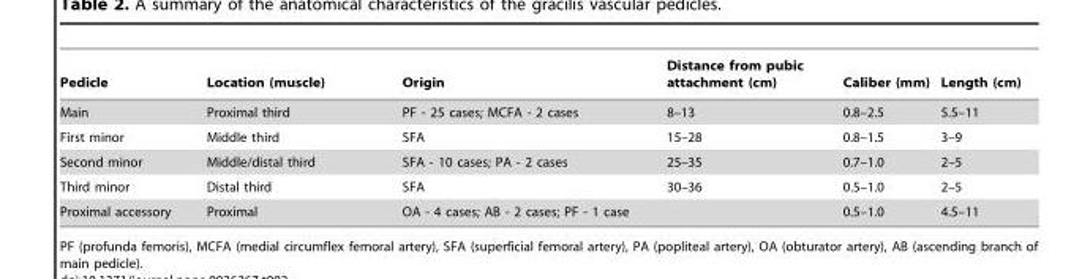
<table><thead><tr><td>Pedicle</td><td>Location (muscle)</td><td>Origin</td><td>Distance from pubic attachment (cm)</td><td>Caliber (mm)</td><td>Length (cm)</td></tr></thead><tbody><tr><td>Main</td><td>Proximal third</td><td>PF - 25 cases; MCFA - 2 cases</td><td>8–13</td><td>0.8–2.5</td><td>5.5–11</td></tr><tr><td>First minor</td><td>Middle third</td><td>SFA</td><td>15–28</td><td>0.8–1.5</td><td>3–9</td></tr><tr><td>Second minor</td><td>Middle/distal third</td><td>SFA - 10 cases; PA - 2 cases</td><td>25–35</td><td>0.7–1.0</td><td>2–5</td></tr><tr><td>Third minor</td><td>Distal third</td><td>SFA</td><td>30–36</td><td>0.5–1.0</td><td>2–5</td></tr><tr><td>Proximal accessory</td><td>Proximal</td><td>OA - 4 cases; AB - 2 cases; PF - 1 case</td><td></td><td>0.5–1.0</td><td>4.5–11</td></tr></tbody></table>